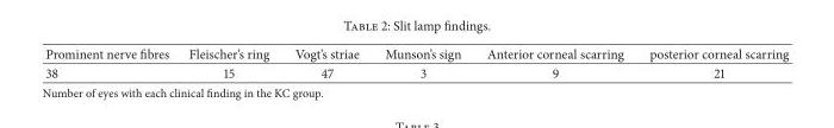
<table><thead><tr><td>Prominent nerve fibres</td><td>Fleischer’s ring</td><td>Vogt’s striae</td><td>Munson’s sign</td><td>Anterior corneal scarring</td><td>posterior corneal scarring</td></tr></thead><tbody><tr><td>38</td><td>15</td><td>47</td><td>3</td><td>9</td><td>21</td></tr></tbody></table>